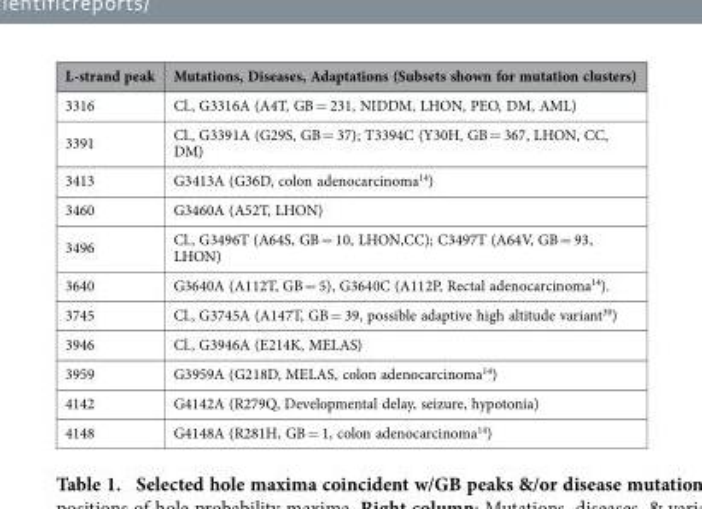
<table><thead><tr><td>L-strand peak</td><td>Mutations, Diseases, Adaptations (Subsets shown for mutation clusters)</td></tr></thead><tbody><tr><td>3316</td><td>Cl., G3316A (A4T, GB = 231, NIDDM, LHON, PEO, DM, AML)</td></tr><tr><td>3391</td><td>Cl., G3391A (G29S, GB = 37); T3394C (Y30H, GB = 367, LHON, CC, DM)</td></tr><tr><td>3413</td><td>G3413A (G36D, colon adenocarcinoma<sup>14</sup>)</td></tr><tr><td>3460</td><td>G3460A (A52T, LHON)</td></tr><tr><td>3496</td><td>Cl., G3496T (A64S, GB = 10, LHON,CC); C3497T (A64V, GB = 93, LHON)</td></tr><tr><td>3640</td><td>G3640A (A112T, GB = 5), G3640C (A112P, Rectal adenocarcinoma<sup>14</sup>).</td></tr><tr><td>3745</td><td>Cl., G3745A (A147T, GB = 39, possible adaptive high altitude variant<sup>30</sup>)</td></tr><tr><td>3946</td><td>Cl., G3946A (E214K, MELAS)</td></tr><tr><td>3959</td><td>G3959A (G218D, MELAS, colon adenocarcinoma<sup>14</sup>)</td></tr><tr><td>4142</td><td>G4142A (R279Q, Developmental delay, seizure, hypotonia)</td></tr><tr><td>4148</td><td>G4148A (R281H, GB = 1, colon adenocarcinoma<sup>14</sup>)</td></tr></tbody></table>